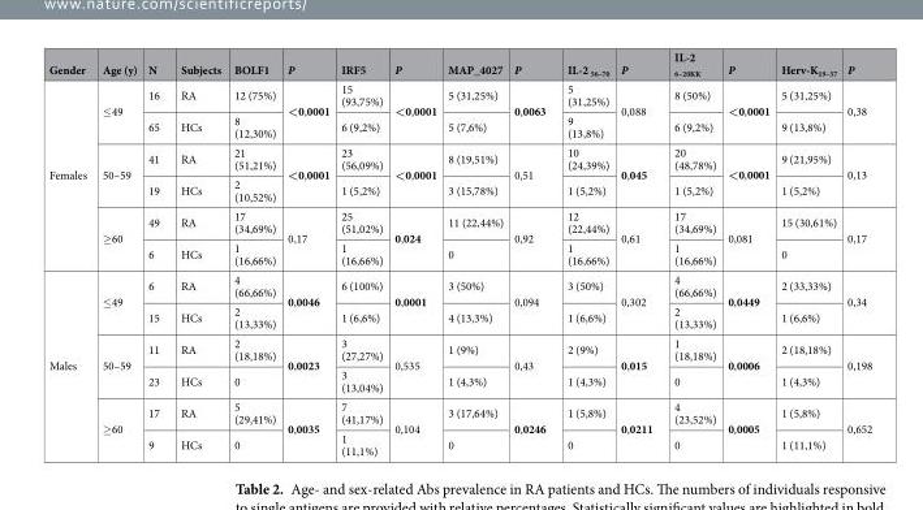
<table><thead><tr><td>Gender</td><td>Age (y)</td><td>N</td><td>Subjects</td><td>BOLF1</td><td>P</td><td>IRF5</td><td>P</td><td>MAP_4027</td><td>P</td><td>IL-2 <sub>56–70</sub></td><td>P</td><td>IL-2 <sub>6–20KK</sub></td><td>P</td><td>Herv-K<sub>19–37</sub></td><td>P</td></tr></thead><tbody><tr><td rowspan="6">Females</td><td rowspan="2">≤49</td><td>16</td><td>RA</td><td>12 (75%)</td><td rowspan="2">&lt;0,0001</td><td>15 (93,75%)</td><td rowspan="2">&lt;0,0001</td><td>5 (31,25%)</td><td rowspan="2">0,0063</td><td>5 (31,25%)</td><td rowspan="2">0,088</td><td>8 (50%)</td><td rowspan="2">&lt;0,0001</td><td>5 (31,25%)</td><td rowspan="2">0,38</td></tr><tr><td>65</td><td>HCs</td><td>8 (12,30%)</td><td>6 (9,2%)</td><td>5 (7,6%)</td><td>9 (13,8%)</td><td>6 (9,2%)</td><td>9 (13,8%)</td></tr><tr><td rowspan="2">50–59</td><td>41</td><td>RA</td><td>21 (51,21%)</td><td rowspan="2">&lt;0,0001</td><td>23 (56,09%)</td><td rowspan="2">&lt;0,0001</td><td>8 (19,51%)</td><td rowspan="2">0,51</td><td>10 (24,39%)</td><td rowspan="2">0,045</td><td>20 (48,78%)</td><td rowspan="2">&lt;0,0001</td><td>9 (21,95%)</td><td rowspan="2">0,13</td></tr><tr><td>19</td><td>HCs</td><td>2 (10,52%)</td><td>1 (5,2%)</td><td>3 (15,78%)</td><td>1 (5,2%)</td><td>1 (5,2%)</td><td>1 (5,2%)</td></tr><tr><td rowspan="2">≥60</td><td>49</td><td>RA</td><td>17 (34,69%)</td><td rowspan="2">0,17</td><td>25 (51,02%)</td><td rowspan="2">0,024</td><td>11 (22,44%)</td><td rowspan="2">0,92</td><td>12 (22,44%)</td><td rowspan="2">0,61</td><td>17 (34,69%)</td><td rowspan="2">0,081</td><td>15 (30,61%)</td><td rowspan="2">0,17</td></tr><tr><td>6</td><td>HCs</td><td>1 (16,66%)</td><td>1 (16,66%)</td><td>0</td><td>1 (16,66%)</td><td>1 (16,66%)</td><td>0</td></tr><tr><td rowspan="6">Males</td><td rowspan="2">≤49</td><td>6</td><td>RA</td><td>4 (66,66%)</td><td rowspan="2">0,0046</td><td>6 (100%)</td><td rowspan="2">0,0001</td><td>3 (50%)</td><td rowspan="2">0,094</td><td>3 (50%)</td><td rowspan="2">0,302</td><td>4 (66,66%)</td><td rowspan="2">0,0449</td><td>2 (33,33%)</td><td rowspan="2">0,34</td></tr><tr><td>15</td><td>HCs</td><td>2 (13,33%)</td><td>1 (6,6%)</td><td>4 (13,3%)</td><td>1 (6,6%)</td><td>2 (13,33%)</td><td>1 (6,6%)</td></tr><tr><td rowspan="2">50–59</td><td>11</td><td>RA</td><td>2 (18,18%)</td><td rowspan="2">0,0023</td><td>3 (27,27%)</td><td rowspan="2">0,535</td><td>1 (9%)</td><td rowspan="2">0,43</td><td>2 (9%)</td><td rowspan="2">0,015</td><td>1 (18,18%)</td><td rowspan="2">0,0006</td><td>2 (18,18%)</td><td rowspan="2">0,198</td></tr><tr><td>23</td><td>HCs</td><td>0</td><td>3 (13,04%)</td><td>1 (4,3%)</td><td>1 (4,3%)</td><td>0</td><td>1 (4,3%)</td></tr><tr><td rowspan="2">≥60</td><td>17</td><td>RA</td><td>5 (29,41%)</td><td rowspan="2">0,0035</td><td>7 (41,17%)</td><td rowspan="2">0,104</td><td>3 (17,64%)</td><td rowspan="2">0,0246</td><td>1 (5,8%)</td><td rowspan="2">0,0211</td><td>4 (23,52%)</td><td rowspan="2">0,0005</td><td>1 (5,8%)</td><td rowspan="2">0,652</td></tr><tr><td>9</td><td>HCs</td><td>0</td><td>1 (11,1%)</td><td>0</td><td>0</td><td>0</td><td>1 (11,1%)</td></tr></tbody></table>